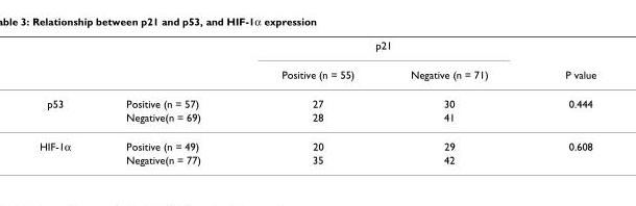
<table><thead><tr><td rowspan="2"></td><td rowspan="2"></td><td colspan="2">p21</td><td rowspan="2">P value</td></tr><tr><td>Positive (n = 55)</td><td>Negative (n = 71)</td></tr></thead><tbody><tr><td rowspan="2">p53</td><td>Positive (n = 57)</td><td>27</td><td>30</td><td>0.444</td></tr><tr><td>Negative(n = 69)</td><td>28</td><td>41</td><td></td></tr><tr><td rowspan="2">HIF-1α</td><td>Positive (n = 49)</td><td>20</td><td>29</td><td>0.608</td></tr><tr><td>Negative(n = 77)</td><td>35</td><td>42</td><td></td></tr></tbody></table>